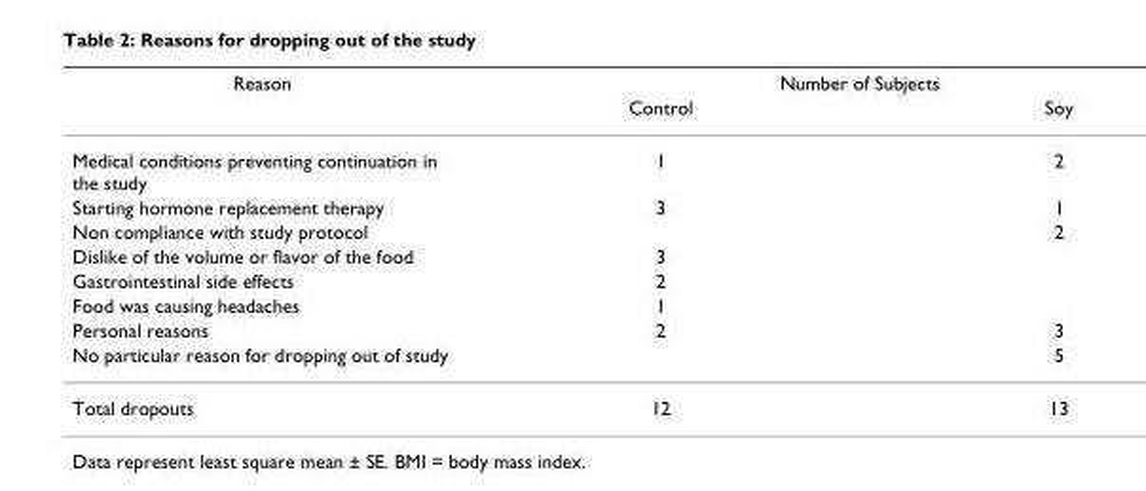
<table><thead><tr><td rowspan="2">Reason</td><td colspan="2">Number of Subjects</td></tr><tr><td>Control</td><td>Soy</td></tr></thead><tbody><tr><td>Medical conditions preventing continuation in the study</td><td>1</td><td>2</td></tr><tr><td>Starting hormone replacement therapy</td><td>3</td><td>1</td></tr><tr><td>Non compliance with study protocol</td><td></td><td>2</td></tr><tr><td>Dislike of the volume or flavor of the food</td><td>3</td><td></td></tr><tr><td>Gastrointestinal side effects</td><td>2</td><td></td></tr><tr><td>Food was causing headaches</td><td>1</td><td></td></tr><tr><td>Personal reasons</td><td>2</td><td>3</td></tr><tr><td>No particular reason for dropping out of study</td><td></td><td>5</td></tr><tr><td>Total dropouts</td><td>12</td><td>13</td></tr></tbody></table>